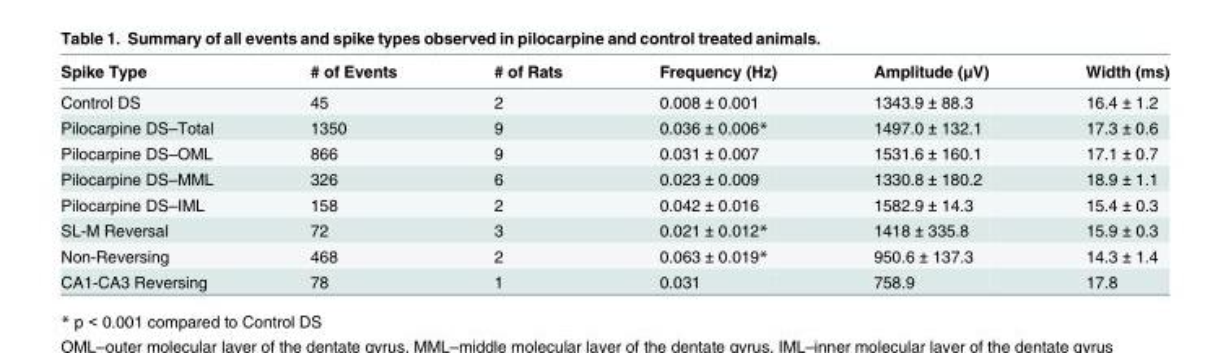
<table><thead><tr><td>Spike Type</td><td># of Events</td><td># of Rats</td><td>Frequency (Hz)</td><td>Amplitude (μV)</td><td>Width (ms)</td></tr></thead><tbody><tr><td>Control DS</td><td>45</td><td>2</td><td>0.008 ± 0.001</td><td>1343.9 ± 88.3</td><td>16.4 ± 1.2</td></tr><tr><td>Pilocarpine DS–Total</td><td>1350</td><td>9</td><td>0.036 ± 0.006*</td><td>1497.0 ± 132.1</td><td>17.3 ± 0.6</td></tr><tr><td>Pilocarpine DS–OML</td><td>866</td><td>9</td><td>0.031 ± 0.007</td><td>1531.6 ± 160.1</td><td>17.1 ± 0.7</td></tr><tr><td>Pilocarpine DS–MML</td><td>326</td><td>6</td><td>0.023 ± 0.009</td><td>1330.8 ± 180.2</td><td>18.9 ± 1.1</td></tr><tr><td>Pilocarpine DS–IML</td><td>158</td><td>2</td><td>0.042 ± 0.016</td><td>1582.9 ± 14.3</td><td>15.4 ± 0.3</td></tr><tr><td>SL-M Reversal</td><td>72</td><td>3</td><td>0.021 ± 0.012*</td><td>1418 ± 335.8</td><td>15.9 ± 0.3</td></tr><tr><td>Non-Reversing</td><td>468</td><td>2</td><td>0.063 ± 0.019*</td><td>950.6 ± 137.3</td><td>14.3 ± 1.4</td></tr><tr><td>CA1-CA3 Reversing</td><td>78</td><td>1</td><td>0.031</td><td>758.9</td><td>17.8</td></tr></tbody></table>